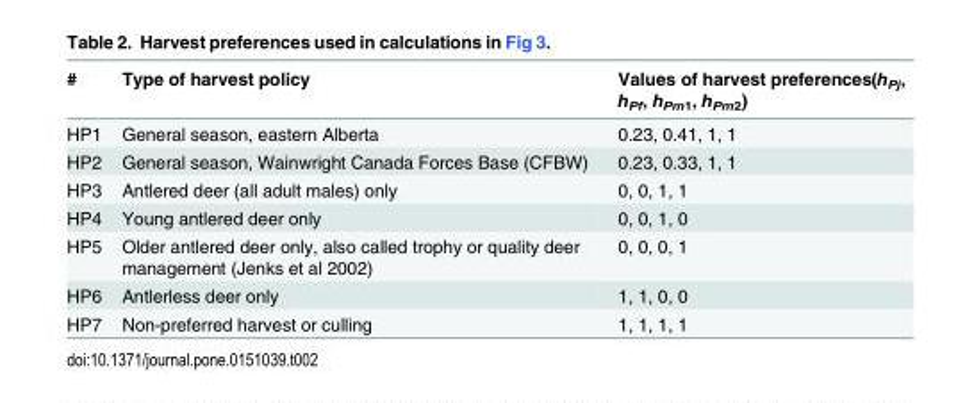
<table><thead><tr><td>#</td><td>Type of harvest policy</td><td>Values of harvest preferences(h<sub>Pj</sub>, h<sub>Pf</sub>, h<sub>Pm1</sub>, h<sub>Pm2</sub>)</td></tr></thead><tbody><tr><td>HP1</td><td>General season, eastern Alberta</td><td>0.23, 0.41, 1, 1</td></tr><tr><td>HP2</td><td>General season, Wainwright Canada Forces Base (CFBW)</td><td>0.23, 0.33, 1, 1</td></tr><tr><td>HP3</td><td>Antlered deer (all adult males) only</td><td>0, 0, 1, 1</td></tr><tr><td>HP4</td><td>Young antlered deer only</td><td>0, 0, 1, 0</td></tr><tr><td>HP5</td><td>Older antlered deer only, also called trophy or quality deer management (Jenks et al 2002)</td><td>0, 0, 0, 1</td></tr><tr><td>HP6</td><td>Antlerless deer only</td><td>1, 1, 0, 0</td></tr><tr><td>HP7</td><td>Non-preferred harvest or culling</td><td>1, 1, 1, 1</td></tr></tbody></table>